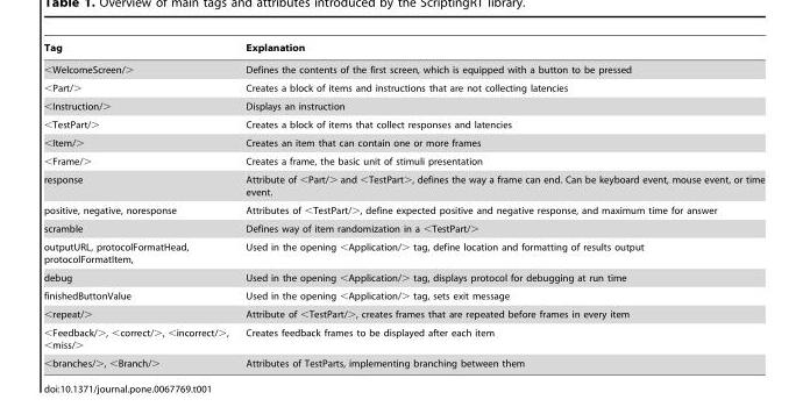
<table><thead><tr><td>Tag</td><td>Explanation</td></tr></thead><tbody><tr><td>&lt;WelcomeScreen/&gt;</td><td>Defines the contents of the first screen, which is equipped with a button to be pressed</td></tr><tr><td>&lt;Part/&gt;</td><td>Creates a block of items and instructions that are not collecting latencies</td></tr><tr><td>&lt;Instruction/&gt;</td><td>Displays an instruction</td></tr><tr><td>&lt;TestPart/&gt;</td><td>Creates a block of items that collect responses and latencies</td></tr><tr><td>&lt;Item/&gt;</td><td>Creates an item that can contain one or more frames</td></tr><tr><td>&lt;Frame/&gt;</td><td>Creates a frame, the basic unit of stimuli presentation</td></tr><tr><td>response</td><td>Attribute of &lt;Part/&gt; and &lt;TestPart&gt;, defines the way a frame can end. Can be keyboard event, mouse event, or time event.</td></tr><tr><td>positive, negative, noresponse</td><td>Attributes of &lt;TestPart/&gt;, define expected positive and negative response, and maximum time for answer</td></tr><tr><td>scramble</td><td>Defines way of item randomization in a &lt;TestPart/&gt;</td></tr><tr><td>outputURL, protocolFormatHead, protocolFormatItem,</td><td>Used in the opening &lt;Application/&gt; tag, define location and formatting of results output</td></tr><tr><td>debug</td><td>Used in the opening &lt;Application/&gt; tag, displays protocol for debugging at run time</td></tr><tr><td>finishedButtonValue</td><td>Used in the opening &lt;Application/&gt; tag, sets exit message</td></tr><tr><td>&lt;repeat/&gt;</td><td>Attribute of &lt;TestPart/&gt;, creates frames that are repeated before frames in every item</td></tr><tr><td>&lt;Feedback/&gt;, &lt;correct/&gt;, &lt;incorrect/&gt;, &lt;miss/&gt;</td><td>Creates feedback frames to be displayed after each item</td></tr><tr><td>&lt;branches/&gt;, &lt;Branch/&gt;</td><td>Attributes of TestParts, implementing branching between them</td></tr></tbody></table>